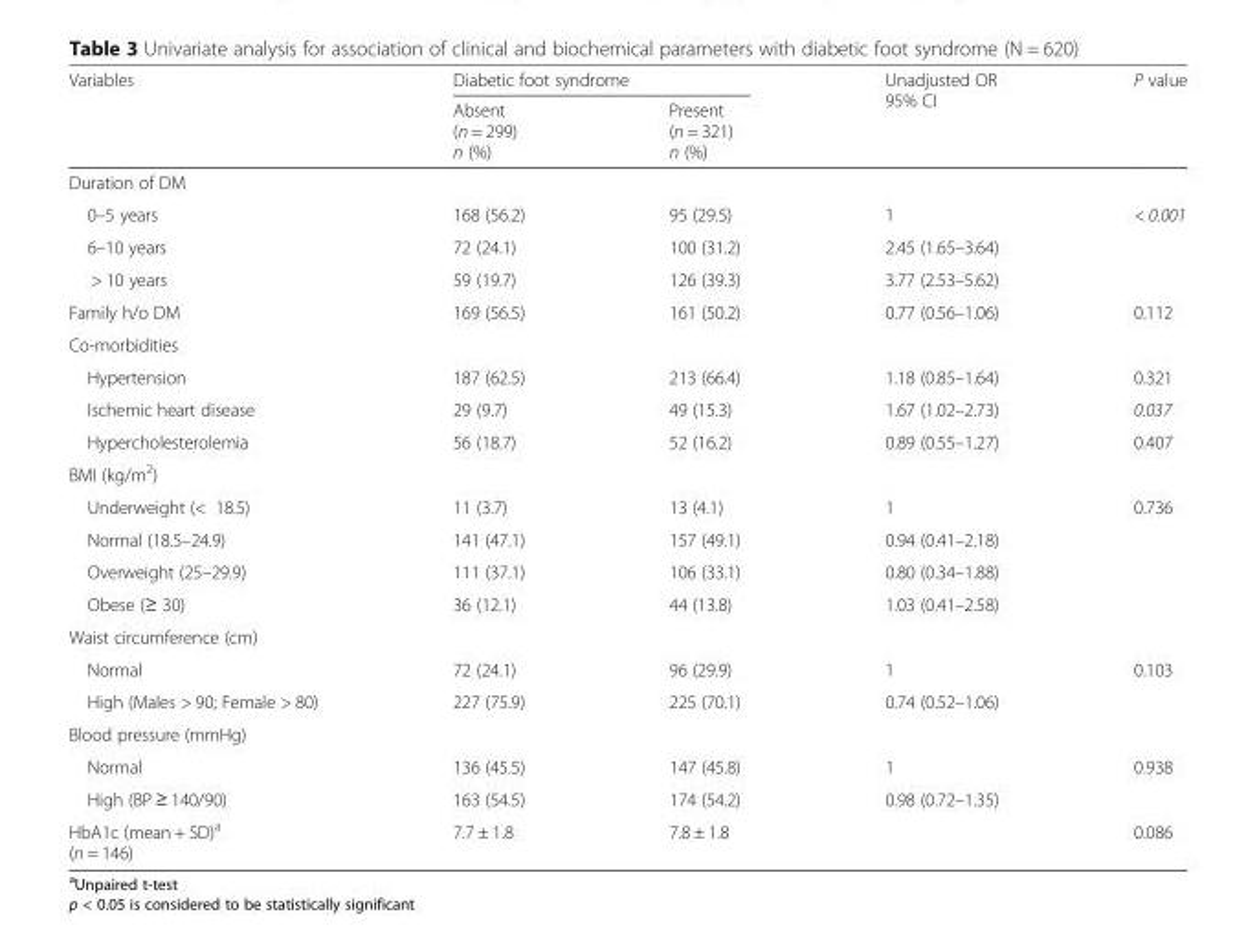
<table><thead><tr><td rowspan="2">Variables</td><td colspan="2">Diabetic foot syndrome</td><td rowspan="2">Unadjusted OR 95% CI</td><td rowspan="2">P value</td></tr><tr><td>Absent (n = 299) n (%)</td><td>Present (n = 321) n (%)</td></tr></thead><tbody><tr><td colspan="5">Duration of DM</td></tr><tr><td>0–5 years</td><td>168 (56.2)</td><td>95 (29.5)</td><td>1</td><td rowspan="3">&lt; 0.001</td></tr><tr><td>6–10 years</td><td>72 (24.1)</td><td>100 (31.2)</td><td>2.45 (1.65–3.64)</td></tr><tr><td>&gt; 10 years</td><td>59 (19.7)</td><td>126 (39.3)</td><td>3.77 (2.53–5.62)</td></tr><tr><td>Family h/o DM</td><td>169 (56.5)</td><td>161 (50.2)</td><td>0.77 (0.56–1.06)</td><td>0.112</td></tr><tr><td colspan="5">Co-morbidities</td></tr><tr><td>Hypertension</td><td>187 (62.5)</td><td>213 (66.4)</td><td>1.18 (0.85–1.64)</td><td>0.321</td></tr><tr><td>Ischemic heart disease</td><td>29 (9.7)</td><td>49 (15.3)</td><td>1.67 (1.02–2.73)</td><td>0.037</td></tr><tr><td>Hypercholesterolemia</td><td>56 (18.7)</td><td>52 (16.2)</td><td>0.89 (0.55–1.27)</td><td>0.407</td></tr><tr><td colspan="5">BMI (kg/m<sup>2</sup>)</td></tr><tr><td>Underweight (&lt; 18.5)</td><td>11 (3.7)</td><td>13 (4.1)</td><td>1</td><td rowspan="4">0.736</td></tr><tr><td>Normal (18.5–24.9)</td><td>141 (47.1)</td><td>157 (49.1)</td><td>0.94 (0.41–2.18)</td></tr><tr><td>Overweight (25–29.9)</td><td>111 (37.1)</td><td>106 (33.1)</td><td>0.80 (0.34–1.88)</td></tr><tr><td>Obese (≥ 30)</td><td>36 (12.1)</td><td>44 (13.8)</td><td>1.03 (0.41–2.58)</td></tr><tr><td colspan="5">Waist circumference (cm)</td></tr><tr><td>Normal</td><td>72 (24.1)</td><td>96 (29.9)</td><td>1</td><td rowspan="2">0.103</td></tr><tr><td>High (Males &gt; 90; Female &gt; 80)</td><td>227 (75.9)</td><td>225 (70.1)</td><td>0.74 (0.52–1.06)</td></tr><tr><td colspan="5">Blood pressure (mmHg)</td></tr><tr><td>Normal</td><td>136 (45.5)</td><td>147 (45.8)</td><td>1</td><td rowspan="2">0.938</td></tr><tr><td>High (BP ≥ 140/90)</td><td>163 (54.5)</td><td>174 (54.2)</td><td>0.98 (0.72–1.35)</td></tr><tr><td>HbA1c (mean + SD)<sup>a</sup> (n = 146)</td><td>7.7 ± 1.8</td><td>7.8 ± 1.8</td><td></td><td>0.086</td></tr></tbody></table>